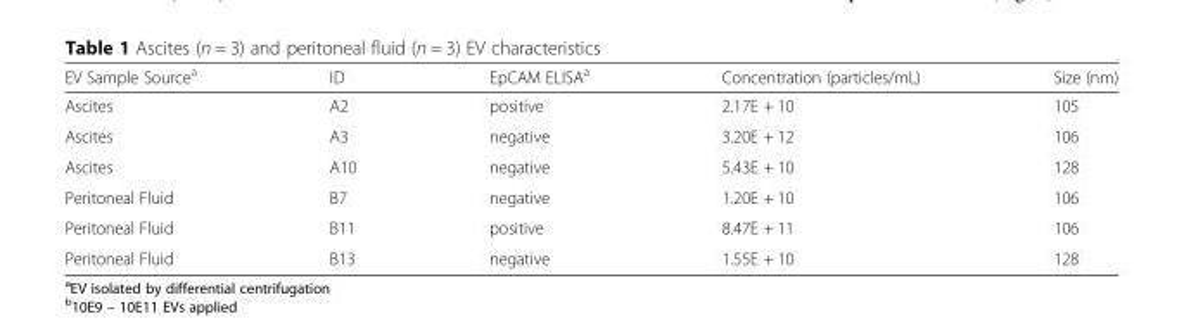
<table><thead><tr><td>EV Sample Source<sup>a</sup></td><td>ID</td><td>EpCAM ELISA<sup>a</sup></td><td>Concentration (particles/mL)</td><td>Size (nm)</td></tr></thead><tbody><tr><td>Ascites</td><td>A2</td><td>positive</td><td>2.17E + 10</td><td>105</td></tr><tr><td>Ascites</td><td>A3</td><td>negative</td><td>3.20E + 12</td><td>106</td></tr><tr><td>Ascites</td><td>A10</td><td>negative</td><td>5.43E + 10</td><td>128</td></tr><tr><td>Peritoneal Fluid</td><td>B7</td><td>negative</td><td>1.20E + 10</td><td>106</td></tr><tr><td>Peritoneal Fluid</td><td>B11</td><td>positive</td><td>8.47E + 11</td><td>106</td></tr><tr><td>Peritoneal Fluid</td><td>B13</td><td>negative</td><td>1.55E + 10</td><td>128</td></tr></tbody></table>